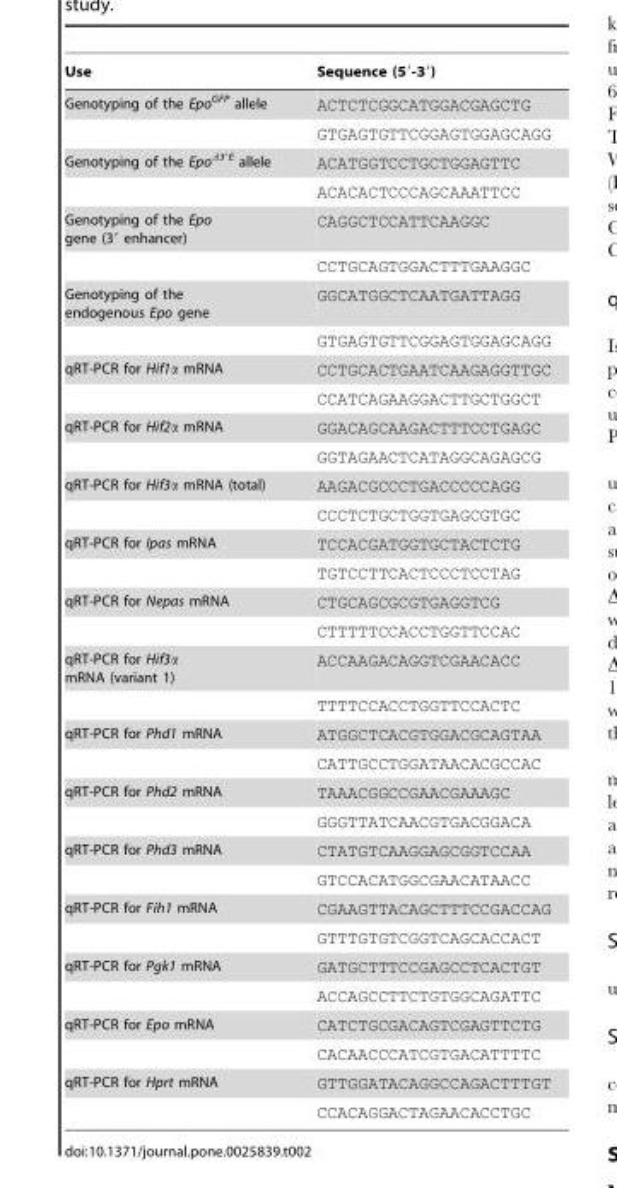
<table><thead><tr><td>Use</td><td>Sequence (5′-3′)</td></tr></thead><tbody><tr><td rowspan="2">Genotyping of the Epo<sup>GFP</sup> allele</td><td>ACTCTCGGCATGGACGAGCTG</td></tr><tr><td>GTGAGTGTTCGGAGTGGAGCAGG</td></tr><tr><td rowspan="2">Genotyping of the Epo<sup>Δ3′E</sup> allele</td><td>ACATGGTCCTGCTGGAGTTC</td></tr><tr><td>ACACACTCCCAGCAAATTCC</td></tr><tr><td rowspan="2">Genotyping of the Epo gene (3′ enhancer)</td><td>CAGGCTCCATTCAAGGC</td></tr><tr><td>CCTGCAGTGGACTTTGAAGGC</td></tr><tr><td rowspan="2">Genotyping of the endogenous Epo gene</td><td>GGCATGGCTCAATGATTAGG</td></tr><tr><td>GTGAGTGTTCGGAGTGGAGCAGG</td></tr><tr><td rowspan="2">qRT-PCR for Hif1α mRNA</td><td>CCTGCACTGAATCAAGAGGTTGC</td></tr><tr><td>CCATCAGAAGGACTTGCTGGCT</td></tr><tr><td rowspan="2">qRT-PCR for Hif2α mRNA</td><td>GGACAGCAAGACTTTCCTGAGC</td></tr><tr><td>GGTAGAACTCATAGGCAGAGCG</td></tr><tr><td rowspan="2">qRT-PCR for Hif3α mRNA (total)</td><td>AAGACGCCCTGACCCCCAGG</td></tr><tr><td>CCCTCTGCTGGTGAGCGTGC</td></tr><tr><td rowspan="2">qRT-PCR for Ipas mRNA</td><td>TCCACGATGGTGCTACTCTG</td></tr><tr><td>TGTCCTTCACTCCCTCCTAG</td></tr><tr><td rowspan="2">qRT-PCR for Nepas mRNA</td><td>CTGCAGCGCGTGAGGTCG</td></tr><tr><td>CTTTTTCCACCTGGTTCCAC</td></tr><tr><td rowspan="2">qRT-PCR for Hif3α mRNA (variant 1)</td><td>ACCAAGACAGGTCGAACACC</td></tr><tr><td>TTTTCCACCTGGTTCCACTC</td></tr><tr><td rowspan="2">qRT-PCR for Phd1 mRNA</td><td>ATGGCTCACGTGGACGCAGTAA</td></tr><tr><td>CATTGCCTGGATAACACGCCAC</td></tr><tr><td rowspan="2">qRT-PCR for Phd2 mRNA</td><td>TAAACGGCCGAACGAAAGC</td></tr><tr><td>GGGTTATCAACGTGACGGACA</td></tr><tr><td rowspan="2">qRT-PCR for Phd3 mRNA</td><td>CTATGTCAAGGAGCGGTCCAA</td></tr><tr><td>GTCCACATGGCGAACATAACC</td></tr><tr><td rowspan="2">qRT-PCR for Fih1 mRNA</td><td>CGAAGTTACAGCTTTCCGACCAG</td></tr><tr><td>GTTTGTGTCGGTCAGCACCACT</td></tr><tr><td rowspan="2">qRT-PCR for Pgk1 mRNA</td><td>GATGCTTTCCGAGCCTCACTGT</td></tr><tr><td>ACCAGCCTTCTGTGGCAGATTC</td></tr><tr><td rowspan="2">qRT-PCR for Epo mRNA</td><td>CATCTGCGACAGTCGAGTTCTG</td></tr><tr><td>CACAACCCATCGTGACATTTTC</td></tr><tr><td rowspan="2">qRT-PCR for Hprt mRNA</td><td>GTTGGATACAGGCCAGACTTTGT</td></tr><tr><td>CCACAGGACTAGAACACCTGC</td></tr></tbody></table>